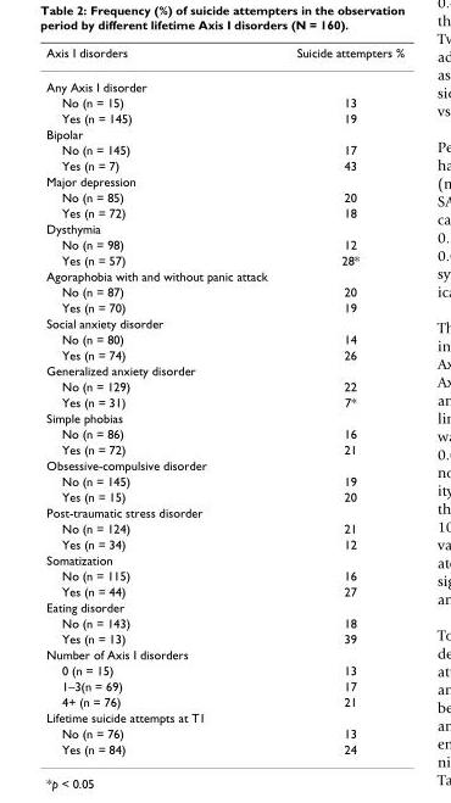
<table><thead><tr><td>Axis I disorders</td><td>Suicide attempters %</td></tr></thead><tbody><tr><td colspan="2">Any Axis I disorder</td></tr><tr><td>No (n = 15)</td><td>13</td></tr><tr><td>Yes (n = 145)</td><td>19</td></tr><tr><td colspan="2">Bipolar</td></tr><tr><td>No (n = 145)</td><td>17</td></tr><tr><td>Yes (n = 7)</td><td>43</td></tr><tr><td colspan="2">Major depression</td></tr><tr><td>No (n = 85)</td><td>20</td></tr><tr><td>Yes (n = 72)</td><td>18</td></tr><tr><td colspan="2">Dysthymia</td></tr><tr><td>No (n = 98)</td><td>12</td></tr><tr><td>Yes (n = 57)</td><td>28*</td></tr><tr><td colspan="2">Agoraphobia with and without panic attack</td></tr><tr><td>No (n = 87)</td><td>20</td></tr><tr><td>Yes (n = 70)</td><td>19</td></tr><tr><td colspan="2">Social anxiety disorder</td></tr><tr><td>No (n = 80)</td><td>14</td></tr><tr><td>Yes (n = 74)</td><td>26</td></tr><tr><td colspan="2">Generalized anxiety disorder</td></tr><tr><td>No (n = 129)</td><td>22</td></tr><tr><td>Yes (n = 31)</td><td>7*</td></tr><tr><td colspan="2">Simple phobias</td></tr><tr><td>No (n = 86)</td><td>16</td></tr><tr><td>Yes (n = 72)</td><td>21</td></tr><tr><td colspan="2">Obsessive-compulsive disorder</td></tr><tr><td>No (n = 145)</td><td>19</td></tr><tr><td>Yes (n = 15)</td><td>20</td></tr><tr><td colspan="2">Post-traumatic stress disorder</td></tr><tr><td>No (n = 124)</td><td>21</td></tr><tr><td>Yes (n = 34)</td><td>12</td></tr><tr><td colspan="2">Somatization</td></tr><tr><td>No (n = 115)</td><td>16</td></tr><tr><td>Yes (n = 44)</td><td>27</td></tr><tr><td colspan="2">Eating disorder</td></tr><tr><td>No (n = 143)</td><td>18</td></tr><tr><td>Yes (n = 13)</td><td>39</td></tr><tr><td colspan="2">Number of Axis I disorders</td></tr><tr><td>0 (n = 15)</td><td>13</td></tr><tr><td>1–3(n = 69)</td><td>17</td></tr><tr><td>4+ (n = 76)</td><td>21</td></tr><tr><td colspan="2">Lifetime suicide attempts at T1</td></tr><tr><td>No (n = 76)</td><td>13</td></tr><tr><td>Yes (n = 84)</td><td>24</td></tr></tbody></table>